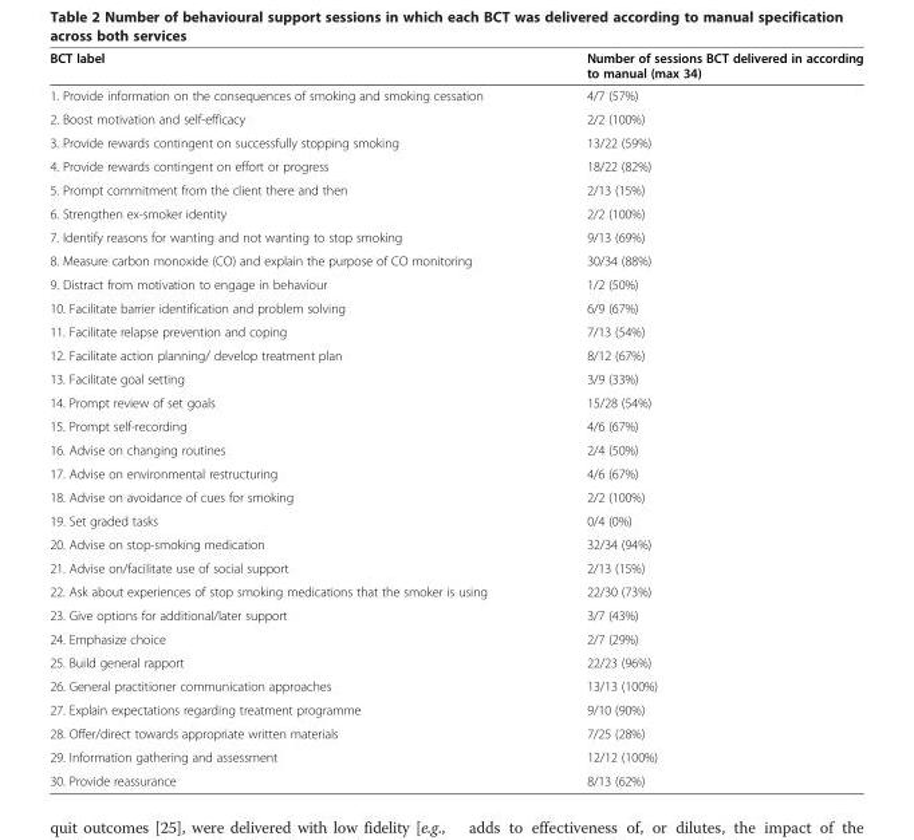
<table><thead><tr><td>BCT label</td><td>Number of sessions BCT delivered in according to manual (max 34)</td></tr></thead><tbody><tr><td>1. Provide information on the consequences of smoking and smoking cessation</td><td>4/7 (57%)</td></tr><tr><td>2. Boost motivation and self-efficacy</td><td>2/2 (100%)</td></tr><tr><td>3. Provide rewards contingent on successfully stopping smoking</td><td>13/22 (59%)</td></tr><tr><td>4. Provide rewards contingent on effort or progress</td><td>18/22 (82%)</td></tr><tr><td>5. Prompt commitment from the client there and then</td><td>2/13 (15%)</td></tr><tr><td>6. Strengthen ex-smoker identity</td><td>2/2 (100%)</td></tr><tr><td>7. Identify reasons for wanting and not wanting to stop smoking</td><td>9/13 (69%)</td></tr><tr><td>8. Measure carbon monoxide (CO) and explain the purpose of CO monitoring</td><td>30/34 (88%)</td></tr><tr><td>9. Distract from motivation to engage in behaviour</td><td>1/2 (50%)</td></tr><tr><td>10. Facilitate barrier identification and problem solving</td><td>6/9 (67%)</td></tr><tr><td>11. Facilitate relapse prevention and coping</td><td>7/13 (54%)</td></tr><tr><td>12. Facilitate action planning/ develop treatment plan</td><td>8/12 (67%)</td></tr><tr><td>13. Facilitate goal setting</td><td>3/9 (33%)</td></tr><tr><td>14. Prompt review of set goals</td><td>15/28 (54%)</td></tr><tr><td>15. Prompt self-recording</td><td>4/6 (67%)</td></tr><tr><td>16. Advise on changing routines</td><td>2/4 (50%)</td></tr><tr><td>17. Advise on environmental restructuring</td><td>4/6 (67%)</td></tr><tr><td>18. Advise on avoidance of cues for smoking</td><td>2/2 (100%)</td></tr><tr><td>19. Set graded tasks</td><td>0/4 (0%)</td></tr><tr><td>20. Advise on stop-smoking medication</td><td>32/34 (94%)</td></tr><tr><td>21. Advise on/facilitate use of social support</td><td>2/13 (15%)</td></tr><tr><td>22. Ask about experiences of stop smoking medications that the smoker is using</td><td>22/30 (73%)</td></tr><tr><td>23. Give options for additional/later support</td><td>3/7 (43%)</td></tr><tr><td>24. Emphasize choice</td><td>2/7 (29%)</td></tr><tr><td>25. Build general rapport</td><td>22/23 (96%)</td></tr><tr><td>26. General practitioner communication approaches</td><td>13/13 (100%)</td></tr><tr><td>27. Explain expectations regarding treatment programme</td><td>9/10 (90%)</td></tr><tr><td>28. Offer/direct towards appropriate written materials</td><td>7/25 (28%)</td></tr><tr><td>29. Information gathering and assessment</td><td>12/12 (100%)</td></tr><tr><td>30. Provide reassurance</td><td>8/13 (62%)</td></tr></tbody></table>